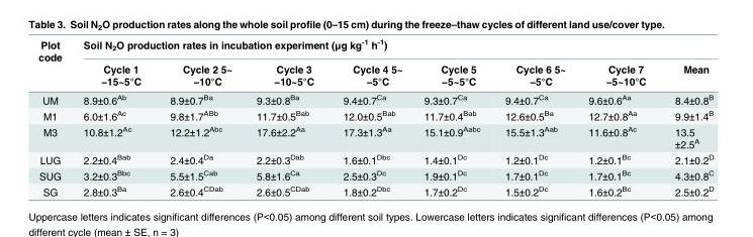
<table><thead><tr><td rowspan="2">Plot code</td><td colspan="8">Soil N<sub>2</sub>O production rates in incubation experiment (μg kg<sup>-1</sup> h<sup>-1</sup>)</td></tr><tr><td>Cycle 1 −15~5°C</td><td>Cycle 2 5~ −10°C</td><td>Cycle 3 −10~5°C</td><td>Cycle 4 5~ −5°C</td><td>Cycle 5 −5~5°C</td><td>Cycle 6 5~ −5°C</td><td>Cycle 7 −5~10°C</td><td>Mean</td></tr></thead><tbody><tr><td>UM</td><td>8.9±0.6<sup>Ab</sup></td><td>8.9±0.7<sup>Ba</sup></td><td>9.3±0.8<sup>Ba</sup></td><td>9.4±0.7<sup>Ca</sup></td><td>9.3±0.7<sup>Ca</sup></td><td>9.4±0.7<sup>Ca</sup></td><td>9.6±0.6<sup>Aa</sup></td><td>8.4±0.8<sup>B</sup></td></tr><tr><td>M1</td><td>6.0±1.6<sup>Ac</sup></td><td>9.8±1.7<sup>ABb</sup></td><td>11.7±0.5<sup>Bab</sup></td><td>12.0±0.5<sup>Bab</sup></td><td>11.7±0.4<sup>Bab</sup></td><td>12.6±0.5<sup>Ba</sup></td><td>12.7±0.8<sup>Aa</sup></td><td>9.9±1.4<sup>B</sup></td></tr><tr><td>M3</td><td>10.8±1.2<sup>Ac</sup></td><td>12.2±1.2<sup>Abc</sup></td><td>17.6±2.2<sup>Aa</sup></td><td>17.3±1.3<sup>Aa</sup></td><td>15.1±0.9<sup>Aabc</sup></td><td>15.5±1.3<sup>Aab</sup></td><td>11.6±0.8<sup>Ac</sup></td><td>13.5 ±2.5<sup>A</sup></td></tr><tr><td>LUG</td><td>2.2±0.4<sup>Bab</sup></td><td>2.4±0.4<sup>Da</sup></td><td>2.2±0.3<sup>Dab</sup></td><td>1.6±0.1<sup>Dbc</sup></td><td>1.4±0.1<sup>Dc</sup></td><td>1.2±0.1<sup>Dc</sup></td><td>1.2±0.1<sup>Bc</sup></td><td>2.1±0.2<sup>D</sup></td></tr><tr><td>SUG</td><td>3.2±0.3<sup>Bbc</sup></td><td>5.5±1.5<sup>Cab</sup></td><td>5.8±1.6<sup>Ca</sup></td><td>2.5±0.3<sup>Dc</sup></td><td>1.9±0.1<sup>Dc</sup></td><td>1.7±0.1<sup>Dc</sup></td><td>1.7±0.1<sup>Bc</sup></td><td>4.3±0.8<sup>C</sup></td></tr><tr><td>SG</td><td>2.8±0.3<sup>Ba</sup></td><td>2.6±0.4<sup>CDab</sup></td><td>2.6±0.5<sup>CDab</sup></td><td>1.8±0.2<sup>Dbc</sup></td><td>1.7±0.2<sup>Dc</sup></td><td>1.5±0.2<sup>Dc</sup></td><td>1.6±0.2<sup>Bc</sup></td><td>2.5±0.2<sup>D</sup></td></tr></tbody></table>